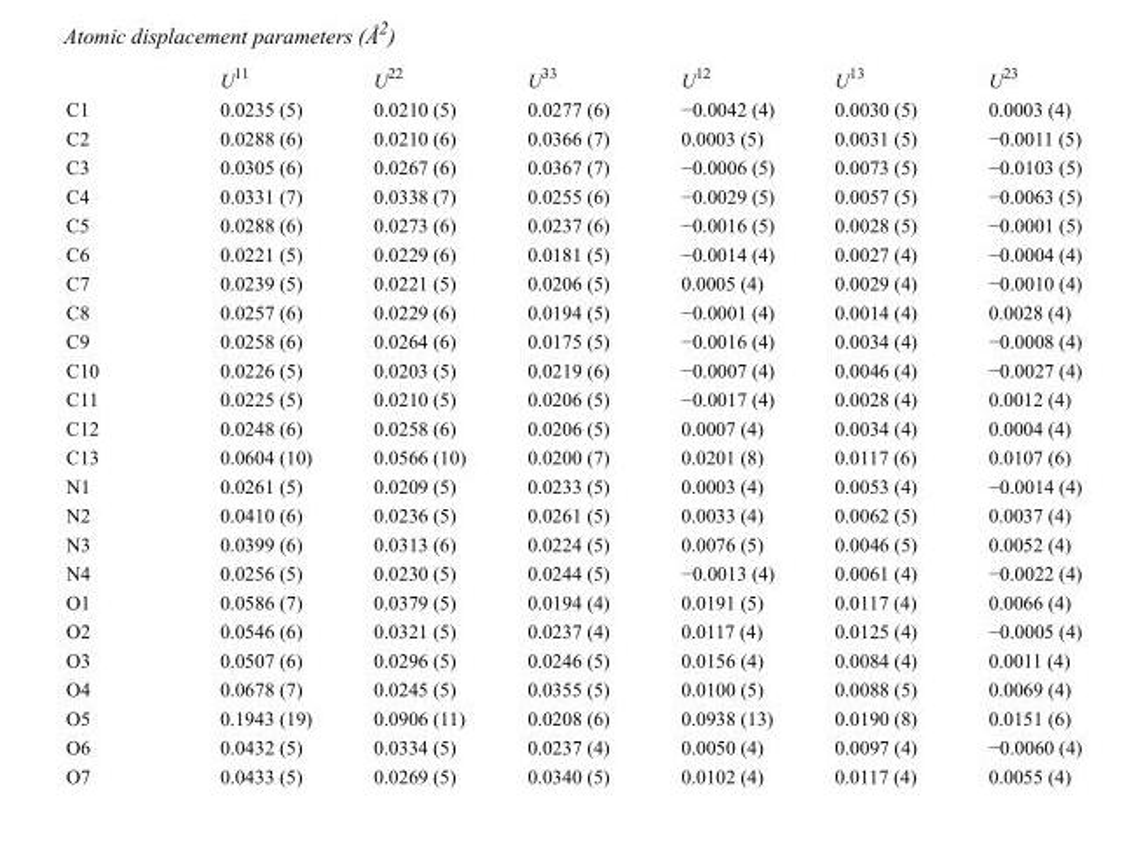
<table><thead><tr><td></td><td>U<sup>11</sup></td><td>U<sup>22</sup></td><td>U<sup>33</sup></td><td>U<sup>12</sup></td><td>U<sup>13</sup></td><td>U<sup>23</sup></td></tr></thead><tbody><tr><td>C1</td><td>0.0235 (5)</td><td>0.0210 (5)</td><td>0.0277 (6)</td><td>−0.0042 (4)</td><td>0.0030 (5)</td><td>0.0003 (4)</td></tr><tr><td>C2</td><td>0.0288 (6)</td><td>0.0210 (6)</td><td>0.0366 (7)</td><td>0.0003 (5)</td><td>0.0031 (5)</td><td>−0.0011 (5)</td></tr><tr><td>C3</td><td>0.0305 (6)</td><td>0.0267 (6)</td><td>0.0367 (7)</td><td>−0.0006 (5)</td><td>0.0073 (5)</td><td>−0.0103 (5)</td></tr><tr><td>C4</td><td>0.0331 (7)</td><td>0.0338 (7)</td><td>0.0255 (6)</td><td>−0.0029 (5)</td><td>0.0057 (5)</td><td>−0.0063 (5)</td></tr><tr><td>C5</td><td>0.0288 (6)</td><td>0.0273 (6)</td><td>0.0237 (6)</td><td>−0.0016 (5)</td><td>0.0028 (5)</td><td>−0.0001 (5)</td></tr><tr><td>C6</td><td>0.0221 (5)</td><td>0.0229 (6)</td><td>0.0181 (5)</td><td>−0.0014 (4)</td><td>0.0027 (4)</td><td>−0.0004 (4)</td></tr><tr><td>C7</td><td>0.0239 (5)</td><td>0.0221 (5)</td><td>0.0206 (5)</td><td>0.0005 (4)</td><td>0.0029 (4)</td><td>−0.0010 (4)</td></tr><tr><td>C8</td><td>0.0257 (6)</td><td>0.0229 (6)</td><td>0.0194 (5)</td><td>−0.0001 (4)</td><td>0.0014 (4)</td><td>0.0028 (4)</td></tr><tr><td>C9</td><td>0.0258 (6)</td><td>0.0264 (6)</td><td>0.0175 (5)</td><td>−0.0016 (4)</td><td>0.0034 (4)</td><td>−0.0008 (4)</td></tr><tr><td>C10</td><td>0.0226 (5)</td><td>0.0203 (5)</td><td>0.0219 (6)</td><td>−0.0007 (4)</td><td>0.0046 (4)</td><td>−0.0027 (4)</td></tr><tr><td>C11</td><td>0.0225 (5)</td><td>0.0210 (5)</td><td>0.0206 (5)</td><td>−0.0017 (4)</td><td>0.0028 (4)</td><td>0.0012 (4)</td></tr><tr><td>C12</td><td>0.0248 (6)</td><td>0.0258 (6)</td><td>0.0206 (5)</td><td>0.0007 (4)</td><td>0.0034 (4)</td><td>0.0004 (4)</td></tr><tr><td>C13</td><td>0.0604 (10)</td><td>0.0566 (10)</td><td>0.0200 (7)</td><td>0.0201 (8)</td><td>0.0117 (6)</td><td>0.0107 (6)</td></tr><tr><td>N1</td><td>0.0261 (5)</td><td>0.0209 (5)</td><td>0.0233 (5)</td><td>0.0003 (4)</td><td>0.0053 (4)</td><td>−0.0014 (4)</td></tr><tr><td>N2</td><td>0.0410 (6)</td><td>0.0236 (5)</td><td>0.0261 (5)</td><td>0.0033 (4)</td><td>0.0062 (5)</td><td>0.0037 (4)</td></tr><tr><td>N3</td><td>0.0399 (6)</td><td>0.0313 (6)</td><td>0.0224 (5)</td><td>0.0076 (5)</td><td>0.0046 (5)</td><td>0.0052 (4)</td></tr><tr><td>N4</td><td>0.0256 (5)</td><td>0.0230 (5)</td><td>0.0244 (5)</td><td>−0.0013 (4)</td><td>0.0061 (4)</td><td>−0.0022 (4)</td></tr><tr><td>O1</td><td>0.0586 (7)</td><td>0.0379 (5)</td><td>0.0194 (4)</td><td>0.0191 (5)</td><td>0.0117 (4)</td><td>0.0066 (4)</td></tr><tr><td>O2</td><td>0.0546 (6)</td><td>0.0321 (5)</td><td>0.0237 (4)</td><td>0.0117 (4)</td><td>0.0125 (4)</td><td>−0.0005 (4)</td></tr><tr><td>O3</td><td>0.0507 (6)</td><td>0.0296 (5)</td><td>0.0246 (5)</td><td>0.0156 (4)</td><td>0.0084 (4)</td><td>0.0011 (4)</td></tr><tr><td>O4</td><td>0.0678 (7)</td><td>0.0245 (5)</td><td>0.0355 (5)</td><td>0.0100 (5)</td><td>0.0088 (5)</td><td>0.0069 (4)</td></tr><tr><td>O5</td><td>0.1943 (19)</td><td>0.0906 (11)</td><td>0.0208 (6)</td><td>0.0938 (13)</td><td>0.0190 (8)</td><td>0.0151 (6)</td></tr><tr><td>O6</td><td>0.0432 (5)</td><td>0.0334 (5)</td><td>0.0237 (4)</td><td>0.0050 (4)</td><td>0.0097 (4)</td><td>−0.0060 (4)</td></tr><tr><td>O7</td><td>0.0433 (5)</td><td>0.0269 (5)</td><td>0.0340 (5)</td><td>0.0102 (4)</td><td>0.0117 (4)</td><td>0.0055 (4)</td></tr></tbody></table>